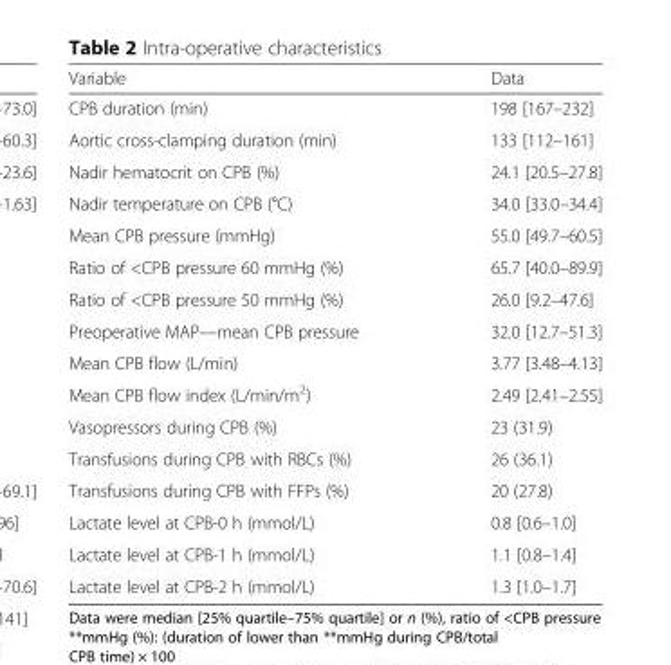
<table><thead><tr><td>Variable</td><td>Data</td></tr></thead><tbody><tr><td>CPB duration (min)</td><td>198 [167–232]</td></tr><tr><td>Aortic cross-clamping duration (min)</td><td>133 [112–161]</td></tr><tr><td>Nadir hematocrit on CPB (%)</td><td>24.1 [20.5–27.8]</td></tr><tr><td>Nadir temperature on CPB (°C)</td><td>34.0 [33.0–34.4]</td></tr><tr><td>Mean CPB pressure (mmHg)</td><td>55.0 [49.7–60.5]</td></tr><tr><td>Ratio of &lt;CPB pressure 60 mmHg (%)</td><td>65.7 [40.0–89.9]</td></tr><tr><td>Ratio of &lt;CPB pressure 50 mmHg (%)</td><td>26.0 [9.2–47.6]</td></tr><tr><td>Preoperative MAP—mean CPB pressure</td><td>32.0 [12.7–51.3]</td></tr><tr><td>Mean CPB flow (L/min)</td><td>3.77 [3.48–4.13]</td></tr><tr><td>Mean CPB flow index (L/min/m<sup>2</sup>)</td><td>2.49 [2.41–2.55]</td></tr><tr><td>Vasopressors during CPB (%)</td><td>23 (31.9)</td></tr><tr><td>Transfusions during CPB with RBCs (%)</td><td>26 (36.1)</td></tr><tr><td>Transfusions during CPB with FFPs (%)</td><td>20 (27.8)</td></tr><tr><td>Lactate level at CPB-0 h (mmol/L)</td><td>0.8 [0.6–1.0]</td></tr><tr><td>Lactate level at CPB-1 h (mmol/L)</td><td>1.1 [0.8–1.4]</td></tr><tr><td>Lactate level at CPB-2 h (mmol/L)</td><td>1.3 [1.0–1.7]</td></tr></tbody></table>